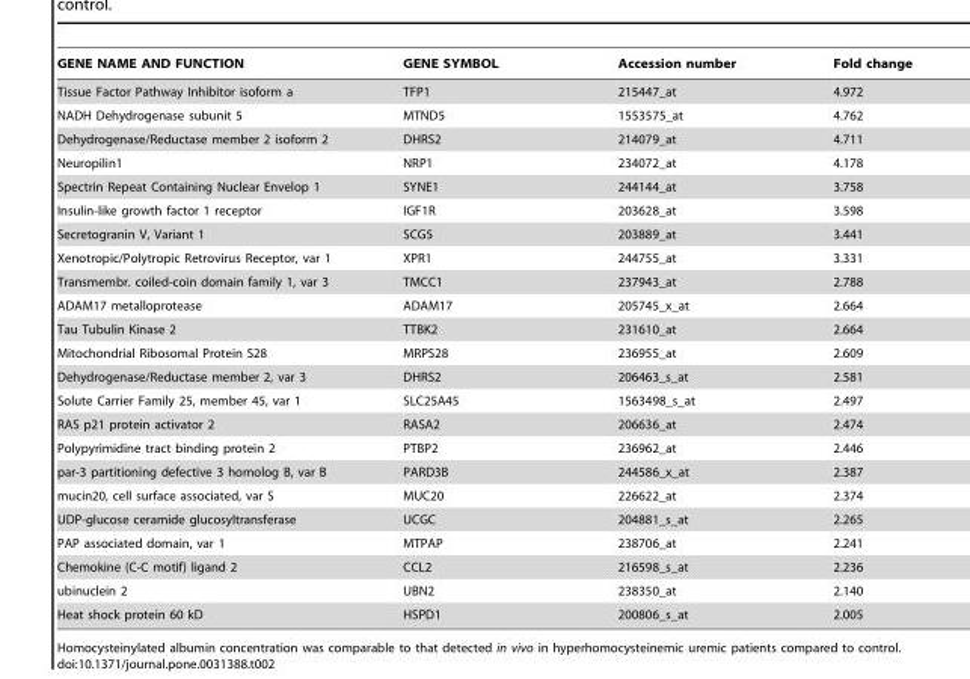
<table><thead><tr><td>GENE NAME AND FUNCTION</td><td>GENE SYMBOL</td><td>Accession number</td><td>Fold change</td></tr></thead><tbody><tr><td>Tissue Factor Pathway Inhibitor isoform a</td><td>TFP1</td><td>215447_at</td><td>4.972</td></tr><tr><td>NADH Dehydrogenase subunit 5</td><td>MTND5</td><td>1553575_at</td><td>4.762</td></tr><tr><td>Dehydrogenase/Reductase member 2 isoform 2</td><td>DHRS2</td><td>214079_at</td><td>4.711</td></tr><tr><td>Neuropilin1</td><td>NRP1</td><td>234072_at</td><td>4.178</td></tr><tr><td>Spectrin Repeat Containing Nuclear Envelop 1</td><td>SYNE1</td><td>244144_at</td><td>3.758</td></tr><tr><td>Insulin-like growth factor 1 receptor</td><td>IGF1R</td><td>203628_at</td><td>3.598</td></tr><tr><td>Secretogranin V, Variant 1</td><td>SCG5</td><td>203889_at</td><td>3.441</td></tr><tr><td>Xenotropic/Polytropic Retrovirus Receptor, var 1</td><td>XPR1</td><td>244755_at</td><td>3.331</td></tr><tr><td>Transmembr. coiled-coin domain family 1, var 3</td><td>TMCC1</td><td>237943_at</td><td>2.788</td></tr><tr><td>ADAM17 metalloprotease</td><td>ADAM17</td><td>205745_x_at</td><td>2.664</td></tr><tr><td>Tau Tubulin Kinase 2</td><td>TTBK2</td><td>231610_at</td><td>2.664</td></tr><tr><td>Mitochondrial Ribosomal Protein S28</td><td>MRPS28</td><td>236955_at</td><td>2.609</td></tr><tr><td>Dehydrogenase/Reductase member 2, var 3</td><td>DHRS2</td><td>206463_s_at</td><td>2.581</td></tr><tr><td>Solute Carrier Family 25, member 45, var 1</td><td>SLC25A45</td><td>1563498_s_at</td><td>2.497</td></tr><tr><td>RAS p21 protein activator 2</td><td>RASA2</td><td>206636_at</td><td>2.474</td></tr><tr><td>Polypyrimidine tract binding protein 2</td><td>PTBP2</td><td>236962_at</td><td>2.446</td></tr><tr><td>par-3 partitioning defective 3 homolog B, var B</td><td>PARD3B</td><td>244586_x_at</td><td>2.387</td></tr><tr><td>mucin20, cell surface associated, var S</td><td>MUC20</td><td>226622_at</td><td>2.374</td></tr><tr><td>UDP-glucose ceramide glucosyltransferase</td><td>UCGC</td><td>204881_s_at</td><td>2.265</td></tr><tr><td>PAP associated domain, var 1</td><td>MTPAP</td><td>238706_at</td><td>2.241</td></tr><tr><td>Chemokine (C-C motif) ligand 2</td><td>CCL2</td><td>216598_s_at</td><td>2.236</td></tr><tr><td>ubinuclein 2</td><td>UBN2</td><td>238350_at</td><td>2.140</td></tr><tr><td>Heat shock protein 60 kD</td><td>HSPD1</td><td>200806_s_at</td><td>2.005</td></tr></tbody></table>